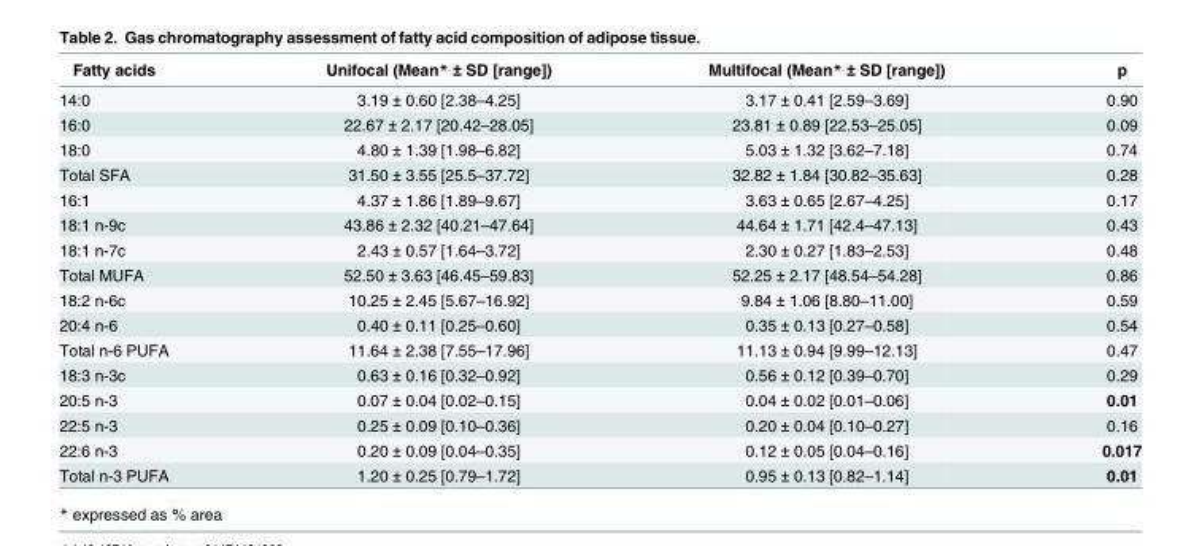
<table><thead><tr><td>Fatty acids</td><td>Unifocal (Mean* ± SD [range])</td><td>Multifocal (Mean* ± SD [range])</td><td>p</td></tr></thead><tbody><tr><td>14:0</td><td>3.19 ± 0.60 [2.38–4.25]</td><td>3.17 ± 0.41 [2.59–3.69]</td><td>0.90</td></tr><tr><td>16:0</td><td>22.67 ± 2.17 [20.42–28.05]</td><td>23.81 ± 0.89 [22.53–25.05]</td><td>0.09</td></tr><tr><td>18:0</td><td>4.80 ± 1.39 [1.98–6.82]</td><td>5.03 ± 1.32 [3.62–7.18]</td><td>0.74</td></tr><tr><td>Total SFA</td><td>31.50 ± 3.55 [25.5–37.72]</td><td>32.82 ± 1.84 [30.82–35.63]</td><td>0.28</td></tr><tr><td>16:1</td><td>4.37 ± 1.86 [1.89–9.67]</td><td>3.63 ± 0.65 [2.67–4.25]</td><td>0.17</td></tr><tr><td>18:1 n-9c</td><td>43.86 ± 2.32 [40.21–47.64]</td><td>44.64 ± 1.71 [42.4–47.13]</td><td>0.43</td></tr><tr><td>18:1 n-7c</td><td>2.43 ± 0.57 [1.64–3.72]</td><td>2.30 ± 0.27 [1.83–2.53]</td><td>0.48</td></tr><tr><td>Total MUFA</td><td>52.50 ± 3.63 [46.45–59.83]</td><td>52.25 ± 2.17 [48.54–54.28]</td><td>0.86</td></tr><tr><td>18:2 n-6c</td><td>10.25 ± 2.45 [5.67–16.92]</td><td>9.84 ± 1.06 [8.80–11.00]</td><td>0.59</td></tr><tr><td>20:4 n-6</td><td>0.40 ± 0.11 [0.25–0.60]</td><td>0.35 ± 0.13 [0.27–0.58]</td><td>0.54</td></tr><tr><td>Total n-6 PUFA</td><td>11.64 ± 2.38 [7.55–17.96]</td><td>11.13 ± 0.94 [9.99–12.13]</td><td>0.47</td></tr><tr><td>18:3 n-3c</td><td>0.63 ± 0.16 [0.32–0.92]</td><td>0.56 ± 0.12 [0.39–0.70]</td><td>0.29</td></tr><tr><td>20:5 n-3</td><td>0.07 ± 0.04 [0.02–0.15]</td><td>0.04 ± 0.02 [0.01–0.06]</td><td>0.01</td></tr><tr><td>22:5 n-3</td><td>0.25 ± 0.09 [0.10–0.36]</td><td>0.20 ± 0.04 [0.10–0.27]</td><td>0.16</td></tr><tr><td>22:6 n-3</td><td>0.20 ± 0.09 [0.04–0.35]</td><td>0.12 ± 0.05 [0.04–0.16]</td><td>0.017</td></tr><tr><td>Total n-3 PUFA</td><td>1.20 ± 0.25 [0.79–1.72]</td><td>0.95 ± 0.13 [0.82–1.14]</td><td>0.01</td></tr></tbody></table>